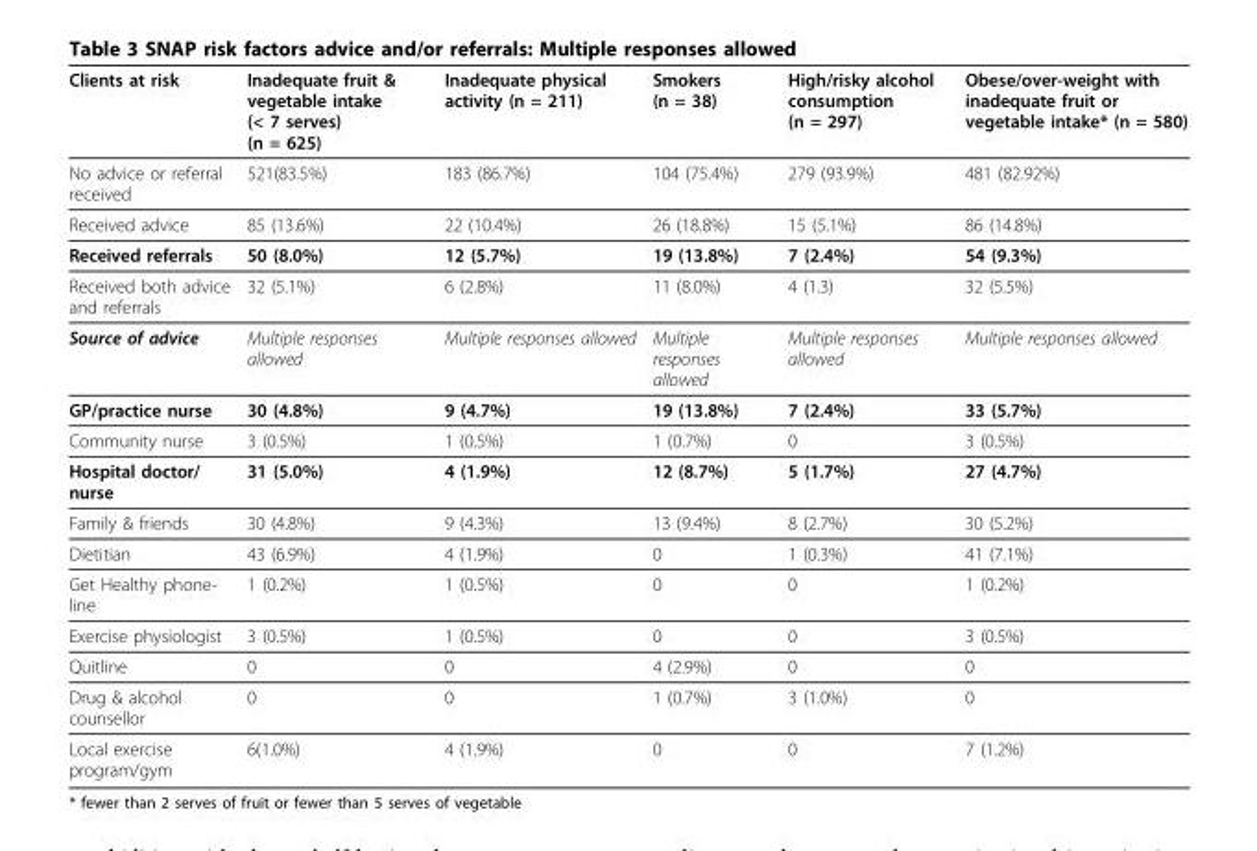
<table><thead><tr><td>Clients at risk</td><td>Inadequate fruit &amp; vegetable intake (&lt; 7 serves) (n = 625)</td><td>Inadequate physical activity (n = 211)</td><td>Smokers (n = 38)</td><td>High/risky alcohol consumption (n = 297)</td><td>Obese/over-weight with inadequate fruit or vegetable intake* (n = 580)</td></tr></thead><tbody><tr><td>No advice or referral received</td><td>521(83.5%)</td><td>183 (86.7%)</td><td>104 (75.4%)</td><td>279 (93.9%)</td><td>481 (82.92%)</td></tr><tr><td>Received advice</td><td>85 (13.6%)</td><td>22 (10.4%)</td><td>26 (18.8%)</td><td>15 (5.1%)</td><td>86 (14.8%)</td></tr><tr><td>Received referrals</td><td>50 (8.0%)</td><td>12 (5.7%)</td><td>19 (13.8%)</td><td>7 (2.4%)</td><td>54 (9.3%)</td></tr><tr><td>Received both advice and referrals</td><td>32 (5.1%)</td><td>6 (2.8%)</td><td>11 (8.0%)</td><td>4 (1.3)</td><td>32 (5.5%)</td></tr><tr><td>Source of advice</td><td>Multiple responses allowed</td><td>Multiple responses allowed</td><td>Multiple responses allowed</td><td>Multiple responses allowed</td><td>Multiple responses allowed</td></tr><tr><td>GP/practice nurse</td><td>30 (4.8%)</td><td>9 (4.7%)</td><td>19 (13.8%)</td><td>7 (2.4%)</td><td>33 (5.7%)</td></tr><tr><td>Community nurse</td><td>3 (0.5%)</td><td>1 (0.5%)</td><td>1 (0.7%)</td><td>0</td><td>3 (0.5%)</td></tr><tr><td>Hospital doctor/ nurse</td><td>31 (5.0%)</td><td>4 (1.9%)</td><td>12 (8.7%)</td><td>5 (1.7%)</td><td>27 (4.7%)</td></tr><tr><td>Family &amp; friends</td><td>30 (4.8%)</td><td>9 (4.3%)</td><td>13 (9.4%)</td><td>8 (2.7%)</td><td>30 (5.2%)</td></tr><tr><td>Dietitian</td><td>43 (6.9%)</td><td>4 (1.9%)</td><td>0</td><td>1 (0.3%)</td><td>41 (7.1%)</td></tr><tr><td>Get Healthy phone- line</td><td>1 (0.2%)</td><td>1 (0.5%)</td><td>0</td><td>0</td><td>1 (0.2%)</td></tr><tr><td>Exercise physiologist</td><td>3 (0.5%)</td><td>1 (0.5%)</td><td>0</td><td>0</td><td>3 (0.5%)</td></tr><tr><td>Quitline</td><td>0</td><td>0</td><td>4 (2.9%)</td><td>0</td><td>0</td></tr><tr><td>Drug &amp; alcohol counsellor</td><td>0</td><td>0</td><td>1 (0.7%)</td><td>3 (1.0%)</td><td>0</td></tr><tr><td>Local exercise program/gym</td><td>6(1.0%)</td><td>4 (1.9%)</td><td>0</td><td>0</td><td>7 (1.2%)</td></tr></tbody></table>